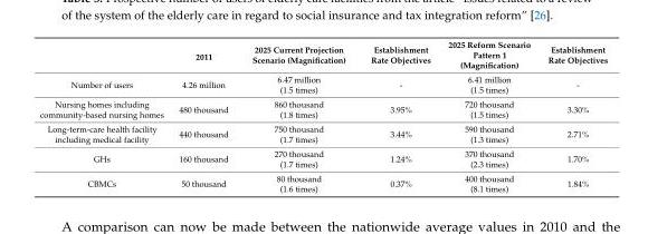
<table><thead><tr><td></td><td>2011</td><td>2025 Current Projection Scenario (Magnification)</td><td>Establishment Rate Objectives</td><td>2025 Reform Scenario Pattern 1 (Magnification)</td><td>Establishment Rate Objectives</td></tr></thead><tbody><tr><td>Number of users</td><td>4.26 million</td><td>6.47 million (1.5 times)</td><td>-</td><td>6.41 million (1.5 times)</td><td>-</td></tr><tr><td>Nursing homes including community-based nursing homes</td><td>480 thousand</td><td>860 thousand (1.8 times)</td><td>3.95%</td><td>720 thousand (1.5 times)</td><td>3.30%</td></tr><tr><td>Long-term-care health facility including medical facility</td><td>440 thousand</td><td>750 thousand (1.7 times)</td><td>3.44%</td><td>590 thousand (1.3 times)</td><td>2.71%</td></tr><tr><td>GHs</td><td>160 thousand</td><td>270 thousand (1.7 times)</td><td>1.24%</td><td>370 thousand (2.3 times)</td><td>1.70%</td></tr><tr><td>CBMCs</td><td>50 thousand</td><td>80 thousand (1.6 times)</td><td>0.37%</td><td>400 thousand (8.1 times)</td><td>1.84%</td></tr></tbody></table>